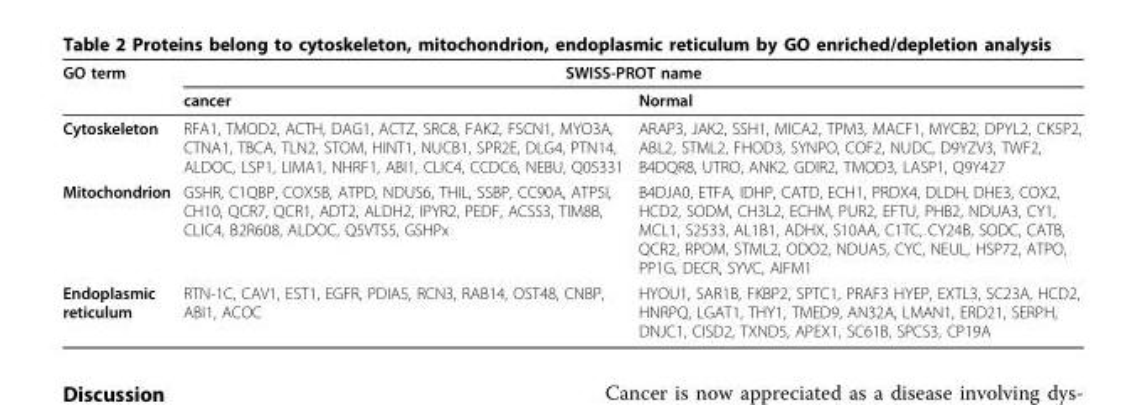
<table><thead><tr><td rowspan="2">GO term</td><td colspan="2">SWISS-PROT name</td></tr><tr><td>cancer</td><td>Normal</td></tr></thead><tbody><tr><td>Cytoskeleton</td><td>RFA1, TMOD2, ACTH, DAG1, ACTZ, SRC8, FAK2, FSCN1, MYO3A, CTNA1, TBCA, TLN2, STOM, HINT1, NUCB1, SPR2E, DLG4, PTN14, ALDOC, LSP1, LIMA1, NHRF1, ABI1, CLIC4, CCDC6, NEBU, Q05331</td><td>ARAP3, JAK2, SSH1, MICA2, TPM3, MACF1, MYCB2, DPYL2, CK5P2, ABL2, STML2, FHOD3, SYNPO, COF2, NUDC, D9YZV3, TWF2, B4DQR8, UTRO, ANK2, GDIR2, TMOD3, LASP1, Q9Y427</td></tr><tr><td>Mitochondrion</td><td>GSHR, C1QBP, COX5B, ATPD, NDUS6, THIL, SSBP, CC90A, ATP5I, CH10, QCR7, QCR1, ADT2, ALDH2, IPYR2, PEDF, ACSS3, TIM8B, CLIC4, B2R608, ALDOC, Q5VTS5, GSHPx</td><td>B4DJA0, ETFA, IDHP, CATD, ECH1, PRDX4, DLDH, DHE3, COX2, HCD2, SODM, CH3L2, ECHM, PUR2, EFTU, PHB2, NDUA3, CY1, MCL1, S2533, AL1B1, ADHX, S10AA, C1TC, CY24B, SODC, CATB, QCR2, RPOM, STML2, ODO2, NDUA5, CYC, NEUL, HSP72, ATPO, PP1G, DECR, SYVC, AIFM1</td></tr><tr><td>Endoplasmic reticulum</td><td>RTN-1C, CAV1, EST1, EGFR, PDIA5, RCN3, RAB14, OST48, CNBP, ABI1, ACOC</td><td>HYOU1, SAR1B, FKBP2, SPTC1, PRAF3 HYEP, EXTL3, SC23A, HCD2, HNRPQ, LGAT1, THY1, TMED9, AN32A, LMAN1, ERD21, SERPH, DNJC1, CISD2, TXND5, APEX1, SC61B, SPCS3, CP19A</td></tr></tbody></table>